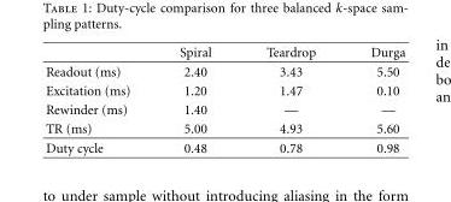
<table><thead><tr><td></td><td>Spiral</td><td>Teardrop</td><td>Durga</td></tr></thead><tbody><tr><td>Readout (ms)</td><td>2.40</td><td>3.43</td><td>5.50</td></tr><tr><td>Excitation (ms)</td><td>1.20</td><td>1.47</td><td>0.10</td></tr><tr><td>Rewinder (ms)</td><td>1.40</td><td>—</td><td>—</td></tr><tr><td>TR (ms)</td><td>5.00</td><td>4.93</td><td>5.60</td></tr><tr><td>Duty cycle</td><td>0.48</td><td>0.78</td><td>0.98</td></tr></tbody></table>